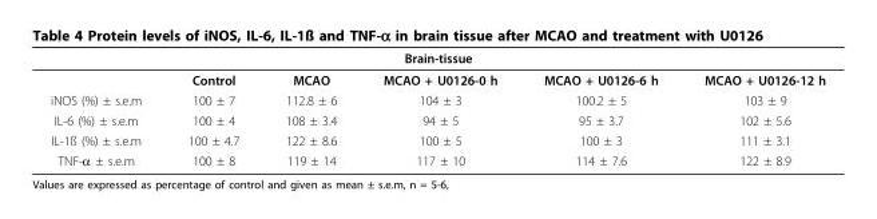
<table><thead><tr><td colspan="6">Brain-tissue</td></tr><tr><td></td><td>Control</td><td>MCAO</td><td>MCAO + U0126-0 h</td><td>MCAO + U0126-6 h</td><td>MCAO + U0126-12 h</td></tr></thead><tbody><tr><td>iNOS (%) ± s.e.m</td><td>100 ± 7</td><td>112.8 ± 6</td><td>104 ± 3</td><td>100.2 ± 5</td><td>103 ± 9</td></tr><tr><td>IL-6 (%) ± s.e.m</td><td>100 ± 4</td><td>108 ± 3.4</td><td>94 ± 5</td><td>95 ± 3.7</td><td>102 ± 5.6</td></tr><tr><td>IL-1ß (%) ± s.e.m</td><td>100 ± 4.7</td><td>122 ± 8.6</td><td>100 ± 5</td><td>100 ± 3</td><td>111 ± 3.1</td></tr><tr><td>TNF-α ± s.e.m</td><td>100 ± 8</td><td>119 ± 14</td><td>117 ± 10</td><td>114 ± 7.6</td><td>122 ± 8.9</td></tr></tbody></table>